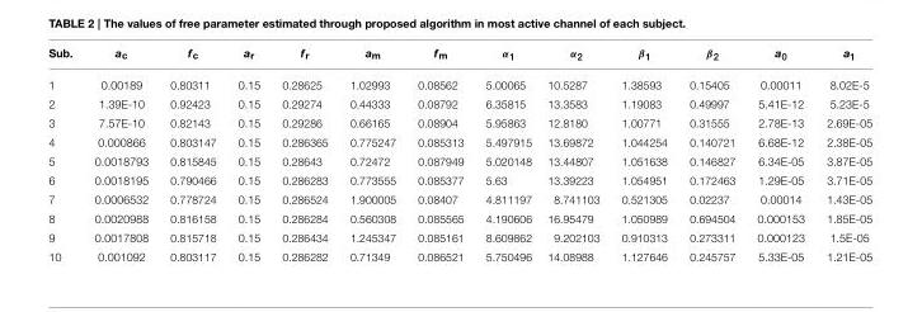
<table><thead><tr><td>Sub.</td><td>a<sub>c</sub></td><td>f<sub>c</sub></td><td>a<sub>r</sub></td><td>f<sub>r</sub></td><td>a<sub>m</sub></td><td>f<sub>m</sub></td><td>α<sub>1</sub></td><td>α<sub>2</sub></td><td>β<sub>1</sub></td><td>β<sub>2</sub></td><td>a<sub>0</sub></td><td>a<sub>1</sub></td></tr></thead><tbody><tr><td>1</td><td>0.00189</td><td>0.80311</td><td>0.15</td><td>0.28625</td><td>1.02993</td><td>0.08562</td><td>5.00065</td><td>10.5287</td><td>1.38593</td><td>0.15405</td><td>0.00011</td><td>8.02E-5</td></tr><tr><td>2</td><td>1.39E-10</td><td>0.92423</td><td>0.15</td><td>0.29274</td><td>0.44333</td><td>0.08792</td><td>6.35815</td><td>13.3583</td><td>1.19083</td><td>0.49997</td><td>5.41E-12</td><td>5.23E-5</td></tr><tr><td>3</td><td>7.57E-10</td><td>0.82143</td><td>0.15</td><td>0.29286</td><td>0.66165</td><td>0.08904</td><td>5.95863</td><td>12.8180</td><td>1.00771</td><td>0.31555</td><td>2.78E-13</td><td>2.69E-05</td></tr><tr><td>4</td><td>0.000866</td><td>0.803147</td><td>0.15</td><td>0.286365</td><td>0.775247</td><td>0.085313</td><td>5.497915</td><td>13.69872</td><td>1.044254</td><td>0.140721</td><td>6.68E-12</td><td>2.38E-05</td></tr><tr><td>5</td><td>0.0018793</td><td>0.815845</td><td>0.15</td><td>0.28643</td><td>0.72472</td><td>0.087949</td><td>5.020148</td><td>13.44807</td><td>1.051638</td><td>0.146827</td><td>6.34E-05</td><td>3.87E-05</td></tr><tr><td>6</td><td>0.0018195</td><td>0.790466</td><td>0.15</td><td>0.286283</td><td>0.773555</td><td>0.085377</td><td>5.63</td><td>13.39223</td><td>1.054951</td><td>0.172463</td><td>1.29E-05</td><td>3.71E-05</td></tr><tr><td>7</td><td>0.0006532</td><td>0.778724</td><td>0.15</td><td>0.286524</td><td>1.900005</td><td>0.08407</td><td>4.811197</td><td>8.741103</td><td>0.521305</td><td>0.02237</td><td>0.00014</td><td>1.43E-05</td></tr><tr><td>8</td><td>0.0020988</td><td>0.816158</td><td>0.15</td><td>0.286284</td><td>0.560308</td><td>0.085565</td><td>4.190606</td><td>16.95479</td><td>1.050989</td><td>0.694504</td><td>0.000153</td><td>1.85E-05</td></tr><tr><td>9</td><td>0.0017808</td><td>0.815718</td><td>0.15</td><td>0.286434</td><td>1.245347</td><td>0.085161</td><td>8.609862</td><td>9.202103</td><td>0.910313</td><td>0.273311</td><td>0.000123</td><td>1.5E-05</td></tr><tr><td>10</td><td>0.001092</td><td>0.803117</td><td>0.15</td><td>0.286282</td><td>0.71349</td><td>0.086521</td><td>5.750496</td><td>14.08988</td><td>1.127646</td><td>0.245757</td><td>5.33E-05</td><td>1.21E-05</td></tr></tbody></table>